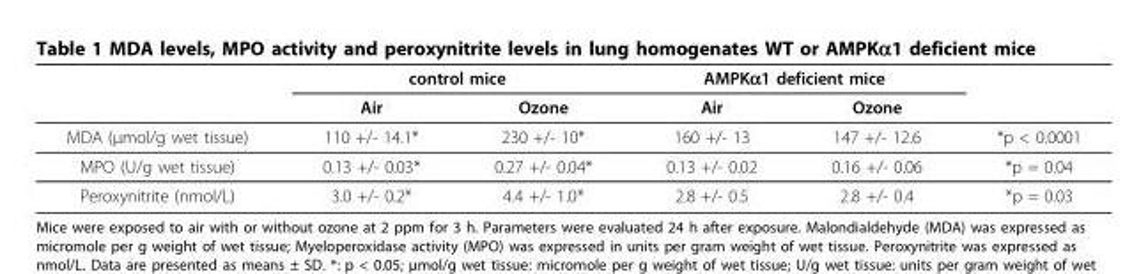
<table><thead><tr><td rowspan="2"></td><td colspan="2">control mice</td><td colspan="2">AMPKα1 deficient mice</td><td rowspan="2"></td></tr><tr><td>Air</td><td>Ozone</td><td>Air</td><td>Ozone</td></tr></thead><tbody><tr><td>MDA (μmol/g wet tissue)</td><td>110 +/- 14.1*</td><td>230 +/- 10*</td><td>160 +/- 13</td><td>147 +/- 12.6</td><td>*p &lt; 0.0001</td></tr><tr><td>MPO (U/g wet tissue)</td><td>0.13 +/- 0.03*</td><td>0.27 +/- 0.04*</td><td>0.13 +/- 0.02</td><td>0.16 +/- 0.06</td><td>*p = 0.04</td></tr><tr><td>Peroxynitrite (nmol/L)</td><td>3.0 +/- 0.2*</td><td>4.4 +/- 1.0*</td><td>2.8 +/- 0.5</td><td>2.8 +/- 0.4</td><td>*p = 0.03</td></tr></tbody></table>